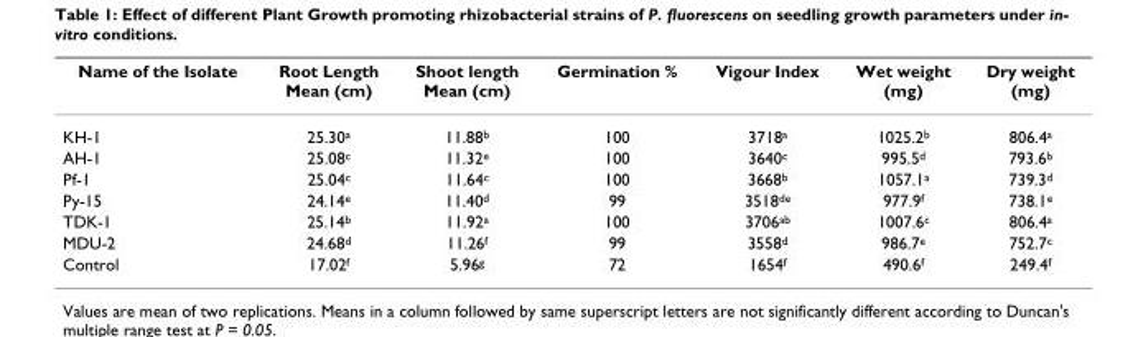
<table><thead><tr><td>Name of the Isolate</td><td>Root Length Mean (cm)</td><td>Shoot length Mean (cm)</td><td>Germination %</td><td>Vigour Index</td><td>Wet weight (mg)</td><td>Dry weight (mg)</td></tr></thead><tbody><tr><td>KH-1</td><td>25.30<sup>a</sup></td><td>11.88<sup>b</sup></td><td>100</td><td>3718<sup>a</sup></td><td>1025.2<sup>b</sup></td><td>806.4<sup>a</sup></td></tr><tr><td>AH-1</td><td>25.08<sup>c</sup></td><td>11.32<sup>e</sup></td><td>100</td><td>3640<sup>c</sup></td><td>995.5<sup>d</sup></td><td>793.6<sup>b</sup></td></tr><tr><td>Pf-1</td><td>25.04<sup>c</sup></td><td>11.64<sup>c</sup></td><td>100</td><td>3668<sup>b</sup></td><td>1057.1<sup>a</sup></td><td>739.3<sup>d</sup></td></tr><tr><td>Py-15</td><td>24.14<sup>e</sup></td><td>11.40<sup>d</sup></td><td>99</td><td>3518<sup>de</sup></td><td>977.9<sup>f</sup></td><td>738.1<sup>e</sup></td></tr><tr><td>TDK-1</td><td>25.14<sup>b</sup></td><td>11.92<sup>a</sup></td><td>100</td><td>3706<sup>ab</sup></td><td>1007.6<sup>c</sup></td><td>806.4<sup>a</sup></td></tr><tr><td>MDU-2</td><td>24.68<sup>d</sup></td><td>11.26<sup>f</sup></td><td>99</td><td>3558<sup>d</sup></td><td>986.7<sup>e</sup></td><td>752.7<sup>c</sup></td></tr><tr><td>Control</td><td>17.02<sup>f</sup></td><td>5.96<sup>g</sup></td><td>72</td><td>1654<sup>f</sup></td><td>490.6<sup>f</sup></td><td>249.4<sup>f</sup></td></tr></tbody></table>